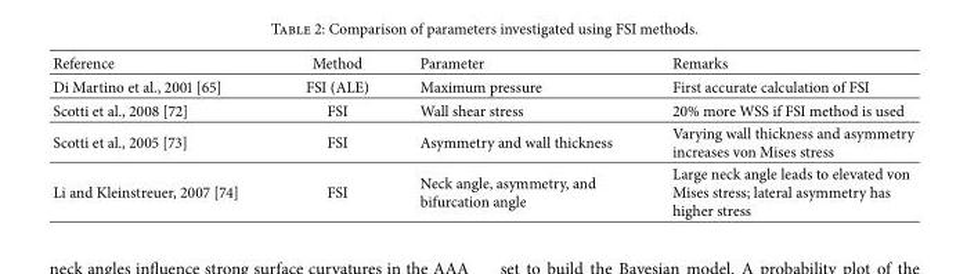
<table><thead><tr><td>Reference</td><td>Method</td><td>Parameter</td><td>Remarks</td></tr></thead><tbody><tr><td>Di Martino et al., 2001 [65]</td><td>FSI (ALE)</td><td>Maximum pressure</td><td>First accurate calculation of FSI</td></tr><tr><td>Scotti et al., 2008 [72]</td><td>FSI</td><td>Wall shear stress</td><td>20% more WSS if FSI method is used</td></tr><tr><td>Scotti et al., 2005 [73]</td><td>FSI</td><td>Asymmetry and wall thickness</td><td>Varying wall thickness and asymmetry increases von Mises stress</td></tr><tr><td>Li and Kleinstreuer, 2007 [74]</td><td>FSI</td><td>Neck angle, asymmetry, and bifurcation angle</td><td>Large neck angle leads to elevated von Mises stress; lateral asymmetry has higher stress</td></tr></tbody></table>